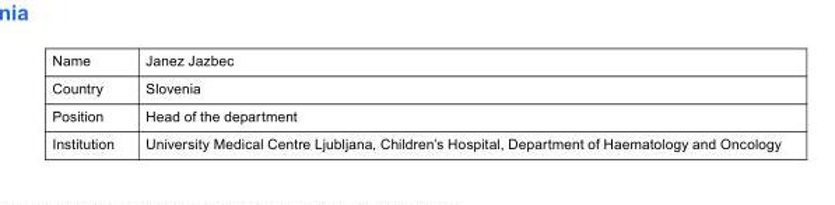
<table><tbody><tr><td>Name</td><td>Janez Jazbec</td></tr><tr><td>Country</td><td>Slovenia</td></tr><tr><td>Position</td><td>Head of the department</td></tr><tr><td>Institution</td><td>University Medical Centre Ljubljana, Children’s Hospital, Department of Haematology and Oncology</td></tr></tbody></table>